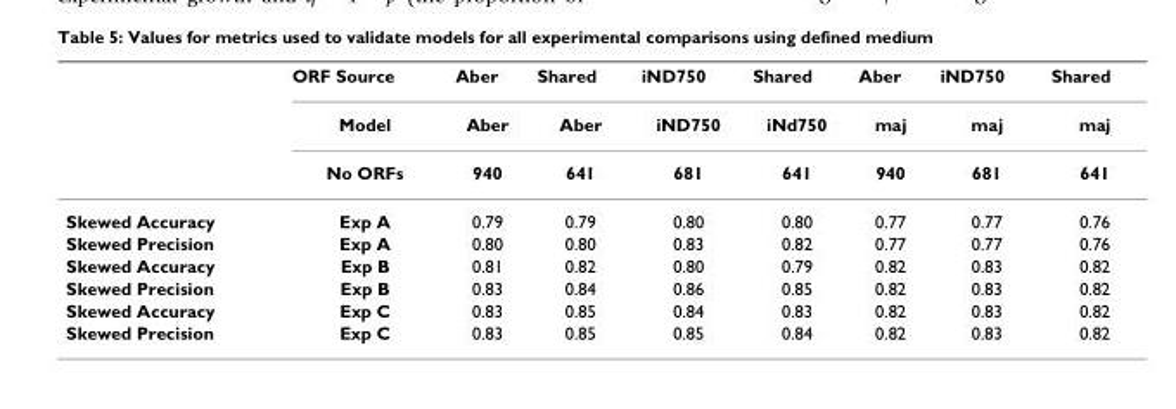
<table><thead><tr><td rowspan="3"></td><td rowspan="3">ORF Source Model No ORFs</td><td rowspan="3">Aber Aber 940</td><td rowspan="3">Shared Aber 641</td><td rowspan="3">iND750 iND750 681</td><td rowspan="3">Shared iNd750 641</td><td rowspan="3">Aber maj 940</td><td rowspan="3">iND750 maj 681</td><td rowspan="3">Shared maj 641</td></tr><tr></tr><tr></tr></thead><tbody><tr><td>Skewed Accuracy</td><td>Exp A</td><td>0.79</td><td>0.79</td><td>0.80</td><td>0.80</td><td>0.77</td><td>0.77</td><td>0.76</td></tr><tr><td>Skewed Precision</td><td>Exp A</td><td>0.80</td><td>0.80</td><td>0.83</td><td>0.82</td><td>0.77</td><td>0.77</td><td>0.76</td></tr><tr><td>Skewed Accuracy</td><td>Exp B</td><td>0.81</td><td>0.82</td><td>0.80</td><td>0.79</td><td>0.82</td><td>0.83</td><td>0.82</td></tr><tr><td>Skewed Precision</td><td>Exp B</td><td>0.83</td><td>0.84</td><td>0.86</td><td>0.85</td><td>0.82</td><td>0.83</td><td>0.82</td></tr><tr><td>Skewed Accuracy</td><td>Exp C</td><td>0.83</td><td>0.85</td><td>0.84</td><td>0.83</td><td>0.82</td><td>0.83</td><td>0.82</td></tr><tr><td>Skewed Precision</td><td>Exp C</td><td>0.83</td><td>0.85</td><td>0.85</td><td>0.84</td><td>0.82</td><td>0.83</td><td>0.82</td></tr></tbody></table>